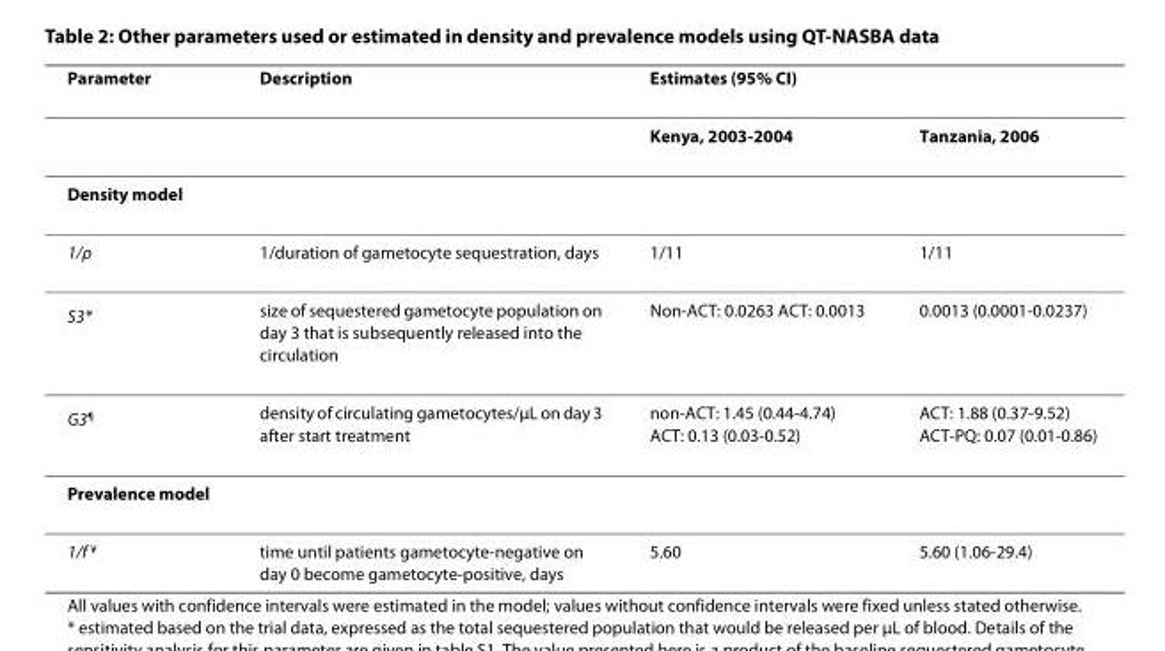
<table><thead><tr><td rowspan="2">Parameter</td><td rowspan="2">Description</td><td colspan="2">Estimates (95% CI)</td></tr><tr><td>Kenya, 2003-2004</td><td>Tanzania, 2006</td></tr></thead><tbody><tr><td colspan="4">Density model</td></tr><tr><td>1/ρ</td><td>1/duration of gametocyte sequestration, days</td><td>1/11</td><td>1/11</td></tr><tr><td>S<sub>3</sub>*</td><td>size of sequestered gametocyte population on day 3 that is subsequently released into the circulation</td><td>Non-ACT: 0.0263 ACT: 0.0013</td><td>0.0013 (0.0001-0.0237)</td></tr><tr><td>G<sub>3</sub><sup>¶</sup></td><td>density of circulating gametocytes/μL on day 3 after start treatment</td><td>non-ACT: 1.45 (0.44-4.74) ACT: 0.13 (0.03-0.52)</td><td>ACT: 1.88 (0.37-9.52) ACT-PQ: 0.07 (0.01-0.86)</td></tr><tr><td colspan="4">Prevalence model</td></tr><tr><td>1/f <sup>¥</sup></td><td>time until patients gametocyte-negative on day 0 become gametocyte-positive, days</td><td>5.60</td><td>5.60 (1.06-29.4)</td></tr></tbody></table>